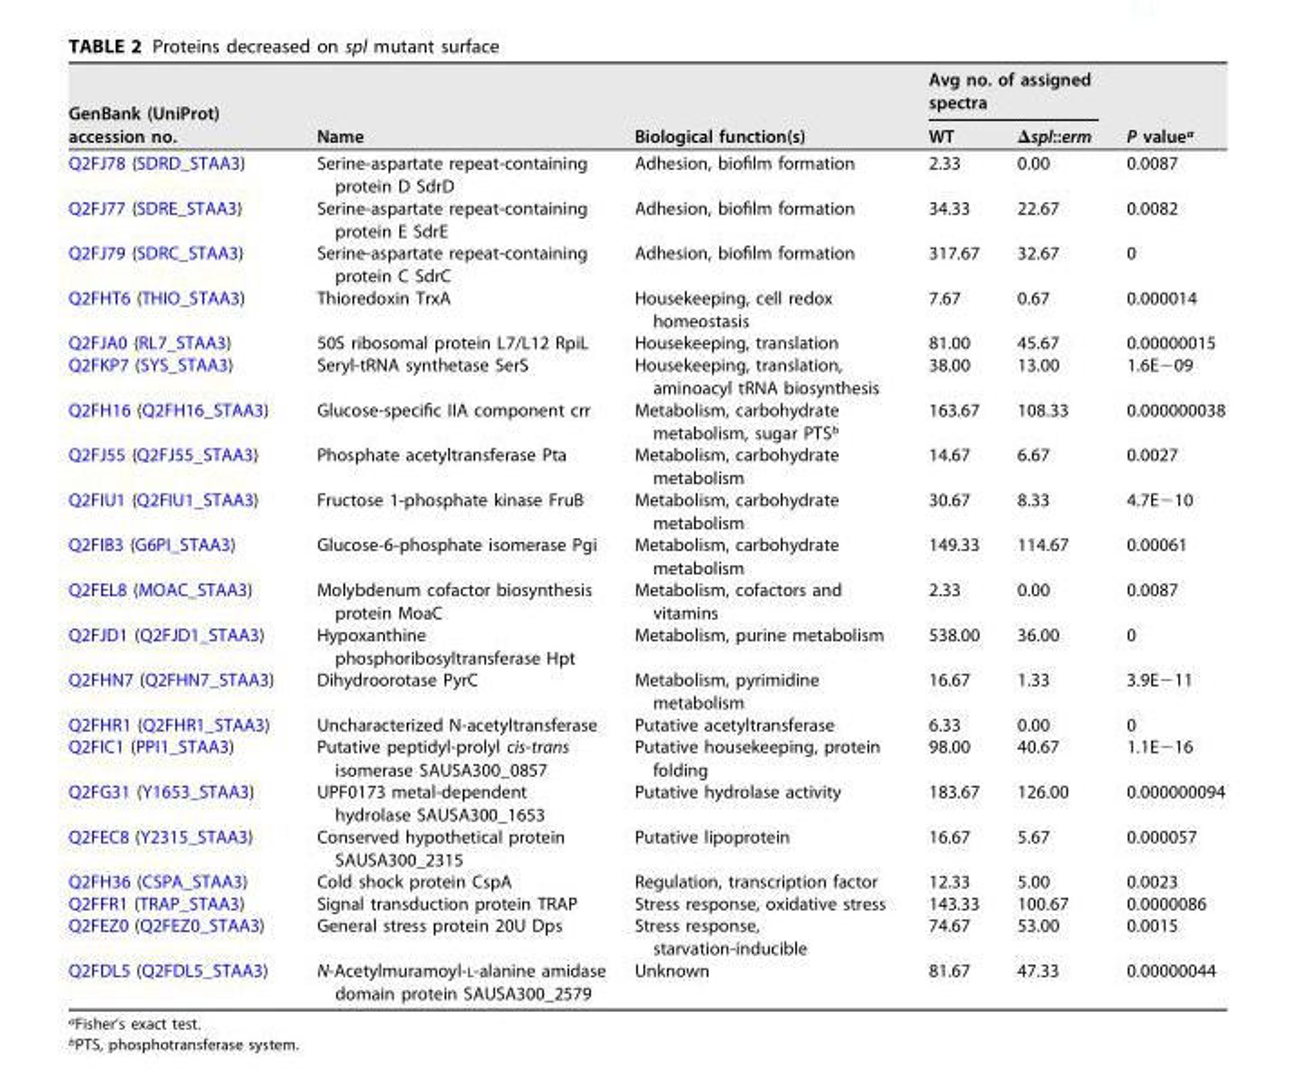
<table><thead><tr><td rowspan="2">GenBank (UniProt) accession no.</td><td rowspan="2">Name</td><td rowspan="2">Biological function(s)</td><td colspan="2">Avg no. of assigned spectra</td><td rowspan="2">P value<sup>a</sup></td></tr><tr><td>WT</td><td>Δspl::erm</td></tr></thead><tbody><tr><td>Q2FJ78 (SDRD_STAA3)</td><td>Serine-aspartate repeat-containing protein D SdrD</td><td>Adhesion, biofilm formation</td><td>2.33</td><td>0.00</td><td>0.0087</td></tr><tr><td>Q2FJ77 (SDRE_STAA3)</td><td>Serine-aspartate repeat-containing protein E SdrE</td><td>Adhesion, biofilm formation</td><td>34.33</td><td>22.67</td><td>0.0082</td></tr><tr><td>Q2FJ79 (SDRC_STAA3)</td><td>Serine-aspartate repeat-containing protein C SdrC</td><td>Adhesion, biofilm formation</td><td>317.67</td><td>32.67</td><td>0</td></tr><tr><td>Q2FHT6 (THIO_STAA3)</td><td>Thioredoxin TrxA</td><td>Housekeeping, cell redox homeostasis</td><td>7.67</td><td>0.67</td><td>0.000014</td></tr><tr><td>Q2FJA0 (RL7_STAA3)</td><td>50S ribosomal protein L7/L12 RpiL</td><td>Housekeeping, translation</td><td>81.00</td><td>45.67</td><td>0.00000015</td></tr><tr><td>Q2FKP7 (SYS_STAA3)</td><td>Seryl-tRNA synthetase SerS</td><td>Housekeeping, translation, aminoacyl tRNA biosynthesis</td><td>38.00</td><td>13.00</td><td>1.6E−09</td></tr><tr><td>Q2FH16 (Q2FH16_STAA3)</td><td>Glucose-specific IIA component crr</td><td>Metabolism, carbohydrate metabolism, sugar PTS<sup>b</sup></td><td>163.67</td><td>108.33</td><td>0.000000038</td></tr><tr><td>Q2FJ55 (Q2FJ55_STAA3)</td><td>Phosphate acetyltransferase Pta</td><td>Metabolism, carbohydrate metabolism</td><td>14.67</td><td>6.67</td><td>0.0027</td></tr><tr><td>Q2FIU1 (Q2FIU1_STAA3)</td><td>Fructose 1-phosphate kinase FruB</td><td>Metabolism, carbohydrate metabolism</td><td>30.67</td><td>8.33</td><td>4.7E−10</td></tr><tr><td>Q2FIB3 (G6PI_STAA3)</td><td>Glucose-6-phosphate isomerase Pgi</td><td>Metabolism, carbohydrate metabolism</td><td>149.33</td><td>114.67</td><td>0.00061</td></tr><tr><td>Q2FEL8 (MOAC_STAA3)</td><td>Molybdenum cofactor biosynthesis protein MoaC</td><td>Metabolism, cofactors and vitamins</td><td>2.33</td><td>0.00</td><td>0.0087</td></tr><tr><td>Q2FJD1 (Q2FJD1_STAA3)</td><td>Hypoxanthine phosphoribosyltransferase Hpt</td><td>Metabolism, purine metabolism</td><td>538.00</td><td>36.00</td><td>0</td></tr><tr><td>Q2FHN7 (Q2FHN7_STAA3)</td><td>Dihydroorotase PyrC</td><td>Metabolism, pyrimidine metabolism</td><td>16.67</td><td>1.33</td><td>3.9E−11</td></tr><tr><td>Q2FHR1 (Q2FHR1_STAA3)</td><td>Uncharacterized N-acetyltransferase</td><td>Putative acetyltransferase</td><td>6.33</td><td>0.00</td><td>0</td></tr><tr><td>Q2FIC1 (PPI1_STAA3)</td><td>Putative peptidyl-prolyl cis-trans isomerase SAUSA300_0857</td><td>Putative housekeeping, protein folding</td><td>98.00</td><td>40.67</td><td>1.1E−16</td></tr><tr><td>Q2FG31 (Y1653_STAA3)</td><td>UPF0173 metal-dependent hydrolase SAUSA300_1653</td><td>Putative hydrolase activity</td><td>183.67</td><td>126.00</td><td>0.000000094</td></tr><tr><td>Q2FEC8 (Y2315_STAA3)</td><td>Conserved hypothetical protein SAUSA300_2315</td><td>Putative lipoprotein</td><td>16.67</td><td>5.67</td><td>0.000057</td></tr><tr><td>Q2FH36 (CSPA_STAA3)</td><td>Cold shock protein CspA</td><td>Regulation, transcription factor</td><td>12.33</td><td>5.00</td><td>0.0023</td></tr><tr><td>Q2FFR1 (TRAP_STAA3)</td><td>Signal transduction protein TRAP</td><td>Stress response, oxidative stress</td><td>143.33</td><td>100.67</td><td>0.0000086</td></tr><tr><td>Q2FEZ0 (Q2FEZ0_STAA3)</td><td>General stress protein 20U Dps</td><td>Stress response, starvation-inducible</td><td>74.67</td><td>53.00</td><td>0.0015</td></tr><tr><td>Q2FDL5 (Q2FDL5_STAA3)</td><td>N-Acetylmuramoyl-L-alanine amidase domain protein SAUSA300_2579</td><td>Unknown</td><td>81.67</td><td>47.33</td><td>0.00000044</td></tr></tbody></table>